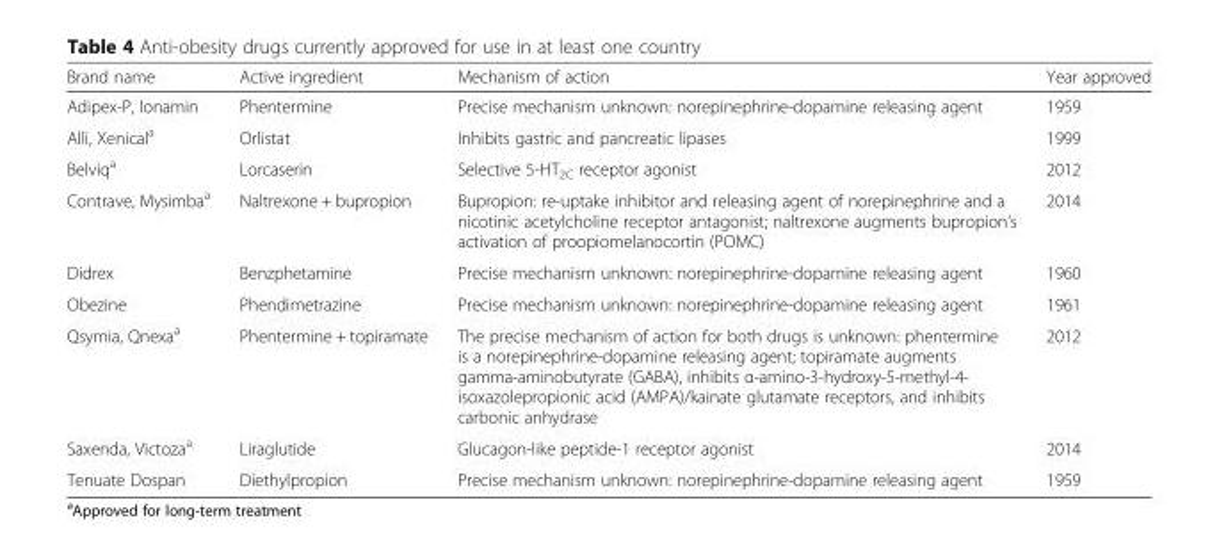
<table><thead><tr><td>Brand name</td><td>Active ingredient</td><td>Mechanism of action</td><td>Year approved</td></tr></thead><tbody><tr><td>Adipex-P, Ionamin</td><td>Phentermine</td><td>Precise mechanism unknown: norepinephrine-dopamine releasing agent</td><td>1959</td></tr><tr><td>Alli, Xenical<sup>a</sup></td><td>Orlistat</td><td>Inhibits gastric and pancreatic lipases</td><td>1999</td></tr><tr><td>Belviq<sup>a</sup></td><td>Lorcaserin</td><td>Selective 5-HT<sub>2C</sub> receptor agonist</td><td>2012</td></tr><tr><td>Contrave, Mysimba<sup>a</sup></td><td>Naltrexone + bupropion</td><td>Bupropion: re-uptake inhibitor and releasing agent of norepinephrine and a nicotinic acetylcholine receptor antagonist; naltrexone augments bupropion’s activation of proopiomelanocortin (POMC)</td><td>2014</td></tr><tr><td>Didrex</td><td>Benzphetamine</td><td>Precise mechanism unknown: norepinephrine-dopamine releasing agent</td><td>1960</td></tr><tr><td>Obezine</td><td>Phendimetrazine</td><td>Precise mechanism unknown: norepinephrine-dopamine releasing agent</td><td>1961</td></tr><tr><td>Qsymia, Qnexa<sup>a</sup></td><td>Phentermine + topiramate</td><td>The precise mechanism of action for both drugs is unknown: phentermine is a norepinephrine-dopamine releasing agent; topiramate augments gamma-aminobutyrate (GABA), inhibits α-amino-3-hydroxy-5-methyl-4- isoxazolepropionic acid (AMPA)/kainate glutamate receptors, and inhibits carbonic anhydrase</td><td>2012</td></tr><tr><td>Saxenda, Victoza<sup>a</sup></td><td>Liraglutide</td><td>Glucagon-like peptide-1 receptor agonist</td><td>2014</td></tr><tr><td>Tenuate Dospan</td><td>Diethylpropion</td><td>Precise mechanism unknown: norepinephrine-dopamine releasing agent</td><td>1959</td></tr></tbody></table>